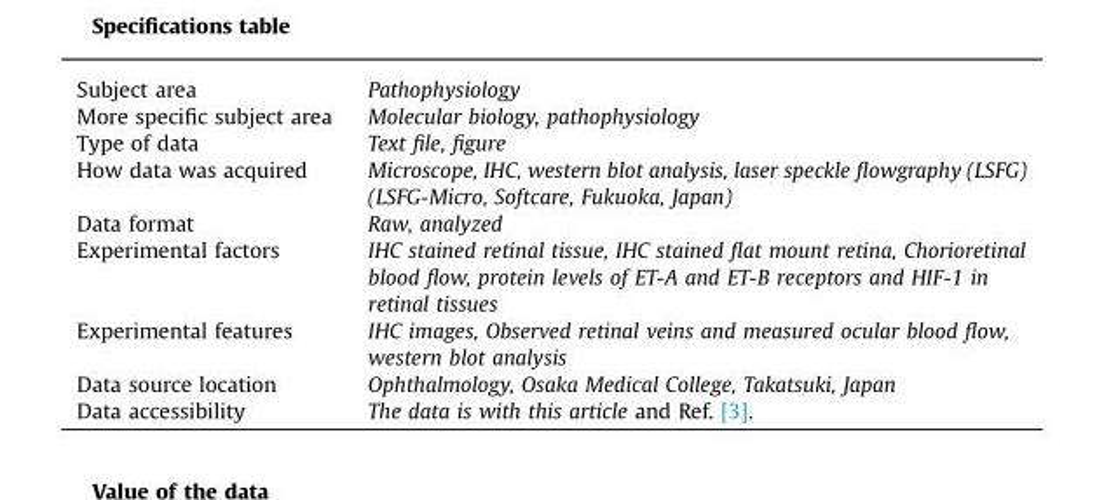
<table><tbody><tr><td>Subject area</td><td>Pathophysiology</td></tr><tr><td>More specific subject area</td><td>Molecular biology, pathophysiology</td></tr><tr><td>Type of data</td><td>Text file, figure</td></tr><tr><td>How data was acquired</td><td>Microscope, IHC, western blot analysis, laser speckle flowgraphy (LSFG) (LSFG-Micro, Softcare, Fukuoka, Japan)</td></tr><tr><td>Data format</td><td>Raw, analyzed</td></tr><tr><td>Experimental factors</td><td>IHC stained retinal tissue, IHC stained flat mount retina, Chorioretinal blood flow, protein levels of ET-A and ET-B receptors and HIF-1 in retinal tissues</td></tr><tr><td>Experimental features</td><td>IHC images, Observed retinal veins and measured ocular blood flow, western blot analysis</td></tr><tr><td>Data source location</td><td>Ophthalmology, Osaka Medical College, Takatsuki, Japan</td></tr><tr><td>Data accessibility</td><td>The data is with this article and Ref. [3].</td></tr></tbody></table>